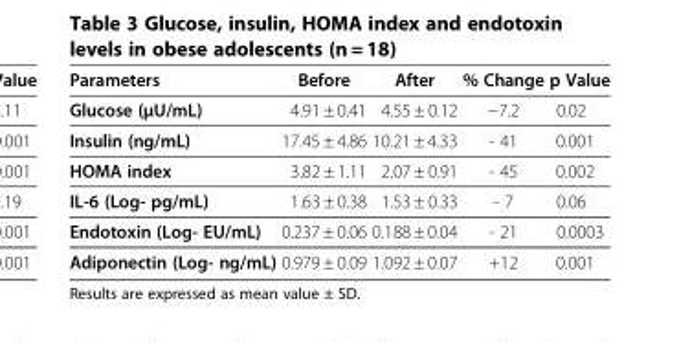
<table><thead><tr><td>Parameters</td><td>Before</td><td>After</td><td>% Change</td><td>p Value</td></tr></thead><tbody><tr><td>Glucose (μU/mL)</td><td>4.91 ± 0.41</td><td>4.55 ± 0.12</td><td>−7.2</td><td>0.02</td></tr><tr><td>Insulin (ng/mL)</td><td>17.45 ± 4.86</td><td>10.21 ± 4.33</td><td>- 41</td><td>0.001</td></tr><tr><td>HOMA index</td><td>3.82 ± 1.11</td><td>2.07 ± 0.91</td><td>- 45</td><td>0.002</td></tr><tr><td>IL-6 (Log- pg/mL)</td><td>1.63 ± 0.38</td><td>1.53 ± 0.33</td><td>- 7</td><td>0.06</td></tr><tr><td>Endotoxin (Log- EU/mL)</td><td>0.237 ± 0.06</td><td>0.188 ± 0.04</td><td>- 21</td><td>0.0003</td></tr><tr><td>Adiponectin (Log- ng/mL)</td><td>0.979 ± 0.09</td><td>1.092 ± 0.07</td><td>+12</td><td>0.001</td></tr></tbody></table>